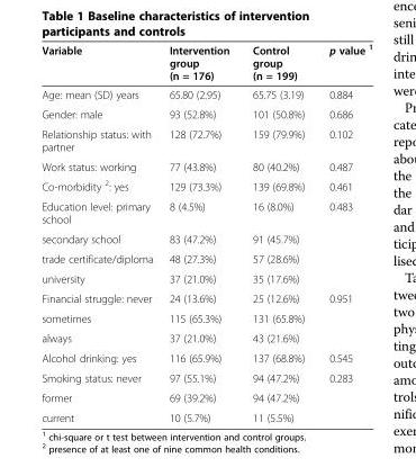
<table><thead><tr><td>Variable</td><td>Intervention group (n = 176)</td><td>Control group (n = 199)</td><td>p value <sup>1</sup></td></tr></thead><tbody><tr><td>Age: mean (SD) years</td><td>65.80 (2.95)</td><td>65.75 (3.19)</td><td>0.884</td></tr><tr><td>Gender: male</td><td>93 (52.8%)</td><td>101 (50.8%)</td><td>0.686</td></tr><tr><td>Relationship status: with partner</td><td>128 (72.7%)</td><td>159 (79.9%)</td><td>0.102</td></tr><tr><td>Work status: working</td><td>77 (43.8%)</td><td>80 (40.2%)</td><td>0.487</td></tr><tr><td>Co-morbidity <sup>2</sup>: yes</td><td>129 (73.3%)</td><td>139 (69.8%)</td><td>0.461</td></tr><tr><td>Education level: primary school</td><td>8 (4.5%)</td><td>16 (8.0%)</td><td rowspan="4">0.483</td></tr><tr><td>secondary school</td><td>83 (47.2%)</td><td>91 (45.7%)</td></tr><tr><td>trade certificate/diploma</td><td>48 (27.3%)</td><td>57 (28.6%)</td></tr><tr><td>university</td><td>37 (21.0%)</td><td>35 (17.6%)</td></tr><tr><td>Financial struggle: never</td><td>24 (13.6%)</td><td>25 (12.6%)</td><td rowspan="3">0.951</td></tr><tr><td>sometimes</td><td>115 (65.3%)</td><td>131 (65.8%)</td></tr><tr><td>always</td><td>37 (21.0%)</td><td>43 (21.6%)</td></tr><tr><td>Alcohol drinking: yes</td><td>116 (65.9%)</td><td>137 (68.8%)</td><td>0.545</td></tr><tr><td>Smoking status: never</td><td>97 (55.1%)</td><td>94 (47.2%)</td><td rowspan="2">0.283</td></tr><tr><td>former</td><td>69 (39.2%)</td><td>94 (47.2%)</td></tr><tr><td>current</td><td>10 (5.7%)</td><td>11 (5.5%)</td><td></td></tr></tbody></table>